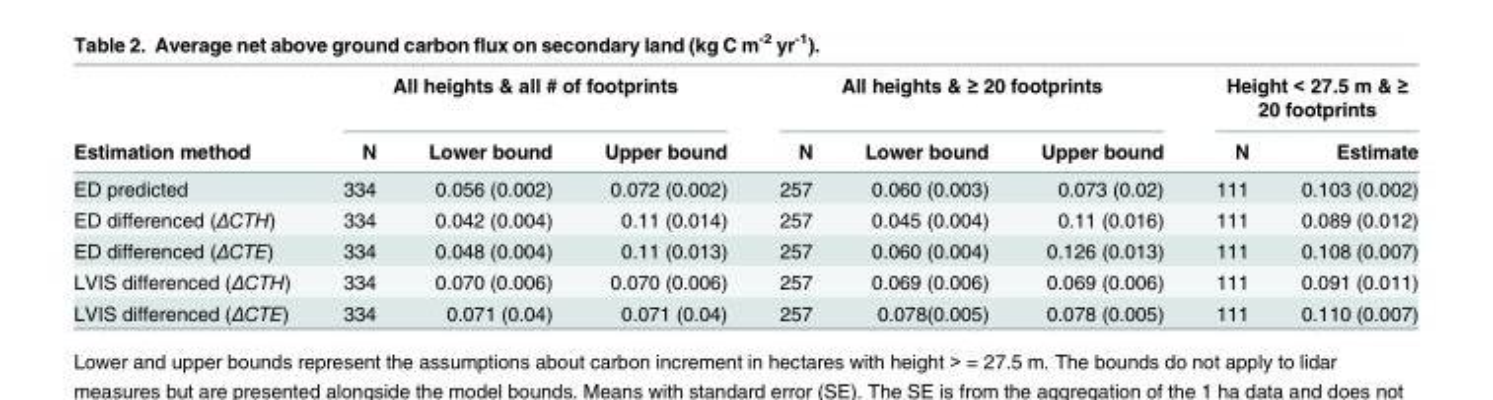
<table><thead><tr><td rowspan="2">Estimation method</td><td colspan="3">All heights &amp; all # of footprints</td><td colspan="3">All heights &amp; ≥ 20 footprints</td><td colspan="2">Height &lt; 27.5 m &amp; ≥ 20 footprints</td></tr><tr><td>N</td><td>Lower bound</td><td>Upper bound</td><td>N</td><td>Lower bound</td><td>Upper bound</td><td>N</td><td>Estimate</td></tr></thead><tbody><tr><td>ED predicted</td><td>334</td><td>0.056 (0.002)</td><td>0.072 (0.002)</td><td>257</td><td>0.060 (0.003)</td><td>0.073 (0.02)</td><td>111</td><td>0.103 (0.002)</td></tr><tr><td>ED differenced (ΔCTH)</td><td>334</td><td>0.042 (0.004)</td><td>0.11 (0.014)</td><td>257</td><td>0.045 (0.004)</td><td>0.11 (0.016)</td><td>111</td><td>0.089 (0.012)</td></tr><tr><td>ED differenced (ΔCTE)</td><td>334</td><td>0.048 (0.004)</td><td>0.11 (0.013)</td><td>257</td><td>0.060 (0.004)</td><td>0.126 (0.013)</td><td>111</td><td>0.108 (0.007)</td></tr><tr><td>LVIS differenced (ΔCTH)</td><td>334</td><td>0.070 (0.006)</td><td>0.070 (0.006)</td><td>257</td><td>0.069 (0.006)</td><td>0.069 (0.006)</td><td>111</td><td>0.091 (0.011)</td></tr><tr><td>LVIS differenced (ΔCTE)</td><td>334</td><td>0.071 (0.04)</td><td>0.071 (0.04)</td><td>257</td><td>0.078(0.005)</td><td>0.078 (0.005)</td><td>111</td><td>0.110 (0.007)</td></tr></tbody></table>